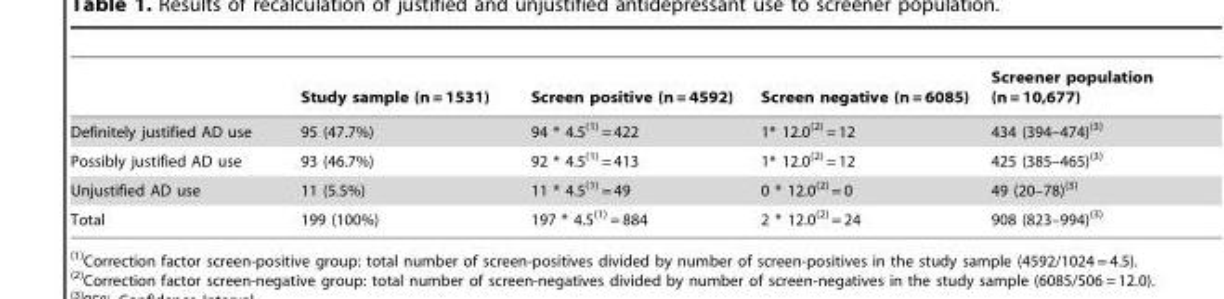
<table><thead><tr><td></td><td>Study sample (n = 1531)</td><td>Screen positive (n = 4592)</td><td>Screen negative (n = 6085)</td><td>Screener population (n = 10,677)</td></tr></thead><tbody><tr><td>Definitely justified AD use</td><td>95 (47.7%)</td><td>94 * 4.5(1) = 422</td><td>1* 12.0(2) = 12</td><td>434 (394–474)(3)</td></tr><tr><td>Possibly justified AD use</td><td>93 (46.7%)</td><td>92 * 4.5(1) = 413</td><td>1* 12.0(2) = 12</td><td>425 (385–465)(3)</td></tr><tr><td>Unjustified AD use</td><td>11 (5.5%)</td><td>11 * 4.5(1) = 49</td><td>0 * 12.0(2) = 0</td><td>49 (20–78)(3)</td></tr><tr><td>Total</td><td>199 (100%)</td><td>197 * 4.5(1) = 884</td><td>2 * 12.0(2) = 24</td><td>908 (823–994)(3)</td></tr></tbody></table>